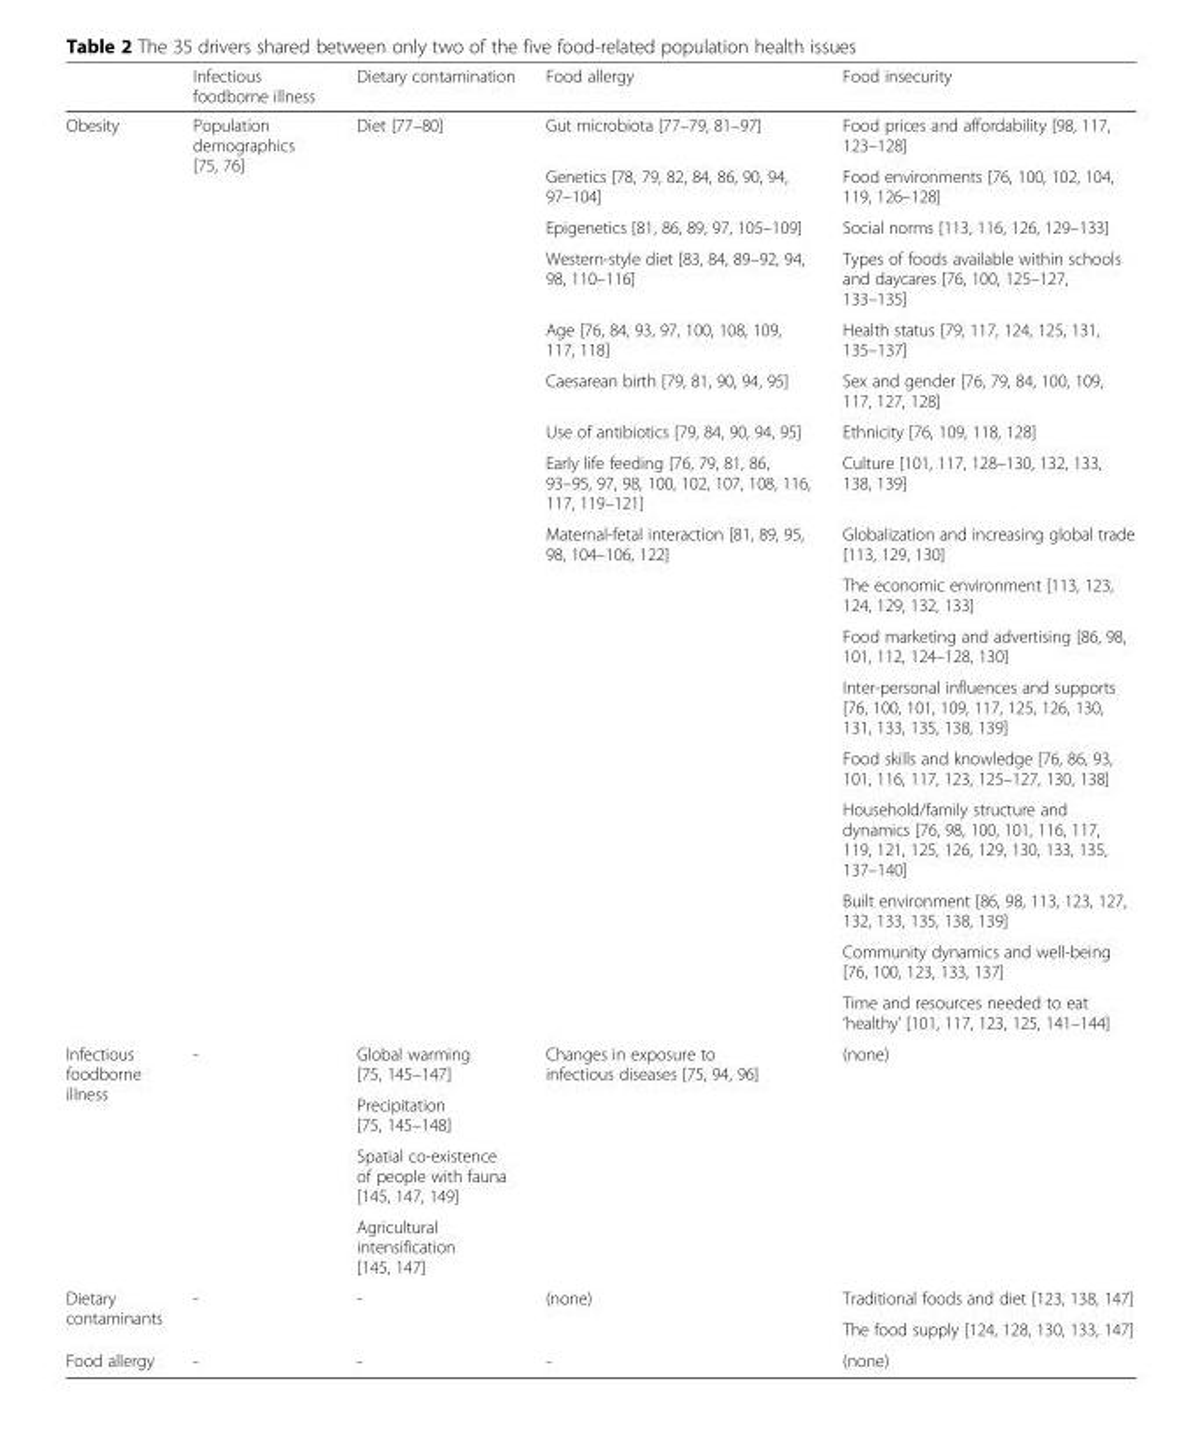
<table><thead><tr><td></td><td>Infectious foodborne illness</td><td>Dietary contamination</td><td>Food allergy</td><td>Food insecurity</td></tr></thead><tbody><tr><td rowspan="17">Obesity</td><td rowspan="17">Population demographics [75, 76]</td><td rowspan="17">Diet [77–80]</td><td>Gut microbiota [77–79, 81–97]</td><td>Food prices and affordability [98, 117, 123–128]</td></tr><tr><td>Genetics [78, 79, 82, 84, 86, 90, 94, 97–104]</td><td>Food environments [76, 100, 102, 104, 119, 126–128]</td></tr><tr><td>Epigenetics [81, 86, 89, 97, 105–109]</td><td>Social norms [113, 116, 126, 129–133]</td></tr><tr><td>Western-style diet [83, 84, 89–92, 94, 98, 110–116]</td><td>Types of foods available within schools and daycares [76, 100, 125–127, 133–135]</td></tr><tr><td>Age [76, 84, 93, 97, 100, 108, 109, 117, 118]</td><td>Health status [79, 117, 124, 125, 131, 135–137]</td></tr><tr><td>Caesarean birth [79, 81, 90, 94, 95]</td><td>Sex and gender [76, 79, 84, 100, 109, 117, 127, 128]</td></tr><tr><td>Use of antibiotics [79, 84, 90, 94, 95]</td><td>Ethnicity [76, 109, 118, 128]</td></tr><tr><td>Early life feeding [76, 79, 81, 86, 93–95, 97, 98, 100, 102, 107, 108, 116, 117, 119–121]</td><td>Culture [101, 117, 128–130, 132, 133, 138, 139]</td></tr><tr><td rowspan="9">Maternal-fetal interaction [81, 89, 95, 98, 104–106, 122]</td><td>Globalization and increasing global trade [113, 129, 130]</td></tr><tr><td>The economic environment [113, 123, 124, 129, 132, 133]</td></tr><tr><td>Food marketing and advertising [86, 98, 101, 112, 124–128, 130]</td></tr><tr><td>Inter-personal influences and supports [76, 100, 101, 109, 117, 125, 126, 130, 131, 133, 135, 138, 139]</td></tr><tr><td>Food skills and knowledge [76, 86, 93, 101, 116, 117, 123, 125–127, 130, 138]</td></tr><tr><td>Household/family structure and dynamics [76, 98, 100, 101, 116, 117, 119, 121, 125, 126, 129, 130, 133, 135, 137–140]</td></tr><tr><td>Built environment [86, 98, 113, 123, 127, 132, 133, 135, 138, 139]</td></tr><tr><td>Community dynamics and well-being [76, 100, 123, 133, 137]</td></tr><tr><td>Time and resources needed to eat ‘healthy’ [101, 117, 123, 125, 141–144]</td></tr><tr><td rowspan="4">Infectious foodborne illness</td><td rowspan="4">-</td><td>Global warming [75, 145–147]</td><td rowspan="4">Changes in exposure to infectious diseases [75, 94, 96]</td><td rowspan="4">(none)</td></tr><tr><td>Precipitation [75, 145–148]</td></tr><tr><td>Spatial co-existence of people with fauna [145, 147, 149]</td></tr><tr><td>Agricultural intensification [145, 147]</td></tr><tr><td rowspan="2">Dietary contaminants</td><td rowspan="2">-</td><td rowspan="2">-</td><td rowspan="2">(none)</td><td>Traditional foods and diet [123, 138, 147]</td></tr><tr><td>The food supply [124, 128, 130, 133, 147]</td></tr><tr><td>Food allergy</td><td>-</td><td>-</td><td>-</td><td>(none)</td></tr></tbody></table>